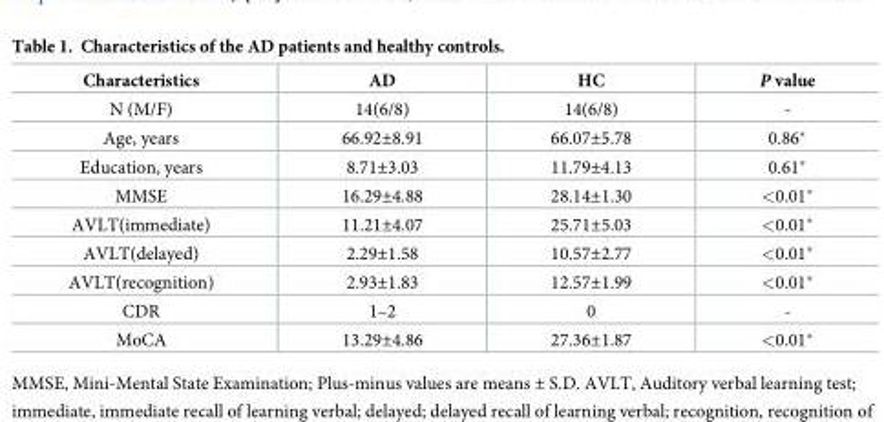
<table><thead><tr><td>Characteristics</td><td>AD</td><td>HC</td><td>P value</td></tr></thead><tbody><tr><td>N (M/F)</td><td>14(6/8)</td><td>14(6/8)</td><td>-</td></tr><tr><td>Age, years</td><td>66.92±8.91</td><td>66.07±5.78</td><td>0.86*</td></tr><tr><td>Education, years</td><td>8.71±3.03</td><td>11.79±4.13</td><td>0.61*</td></tr><tr><td>MMSE</td><td>16.29±4.88</td><td>28.14±1.30</td><td>&lt;0.01*</td></tr><tr><td>AVLT(immediate)</td><td>11.21±4.07</td><td>25.71±5.03</td><td>&lt;0.01*</td></tr><tr><td>AVLT(delayed)</td><td>2.29±1.58</td><td>10.57±2.77</td><td>&lt;0.01*</td></tr><tr><td>AVLT(recognition)</td><td>2.93±1.83</td><td>12.57±1.99</td><td>&lt;0.01*</td></tr><tr><td>CDR</td><td>1–2</td><td>0</td><td>-</td></tr><tr><td>MoCA</td><td>13.29±4.86</td><td>27.36±1.87</td><td>&lt;0.01*</td></tr></tbody></table>